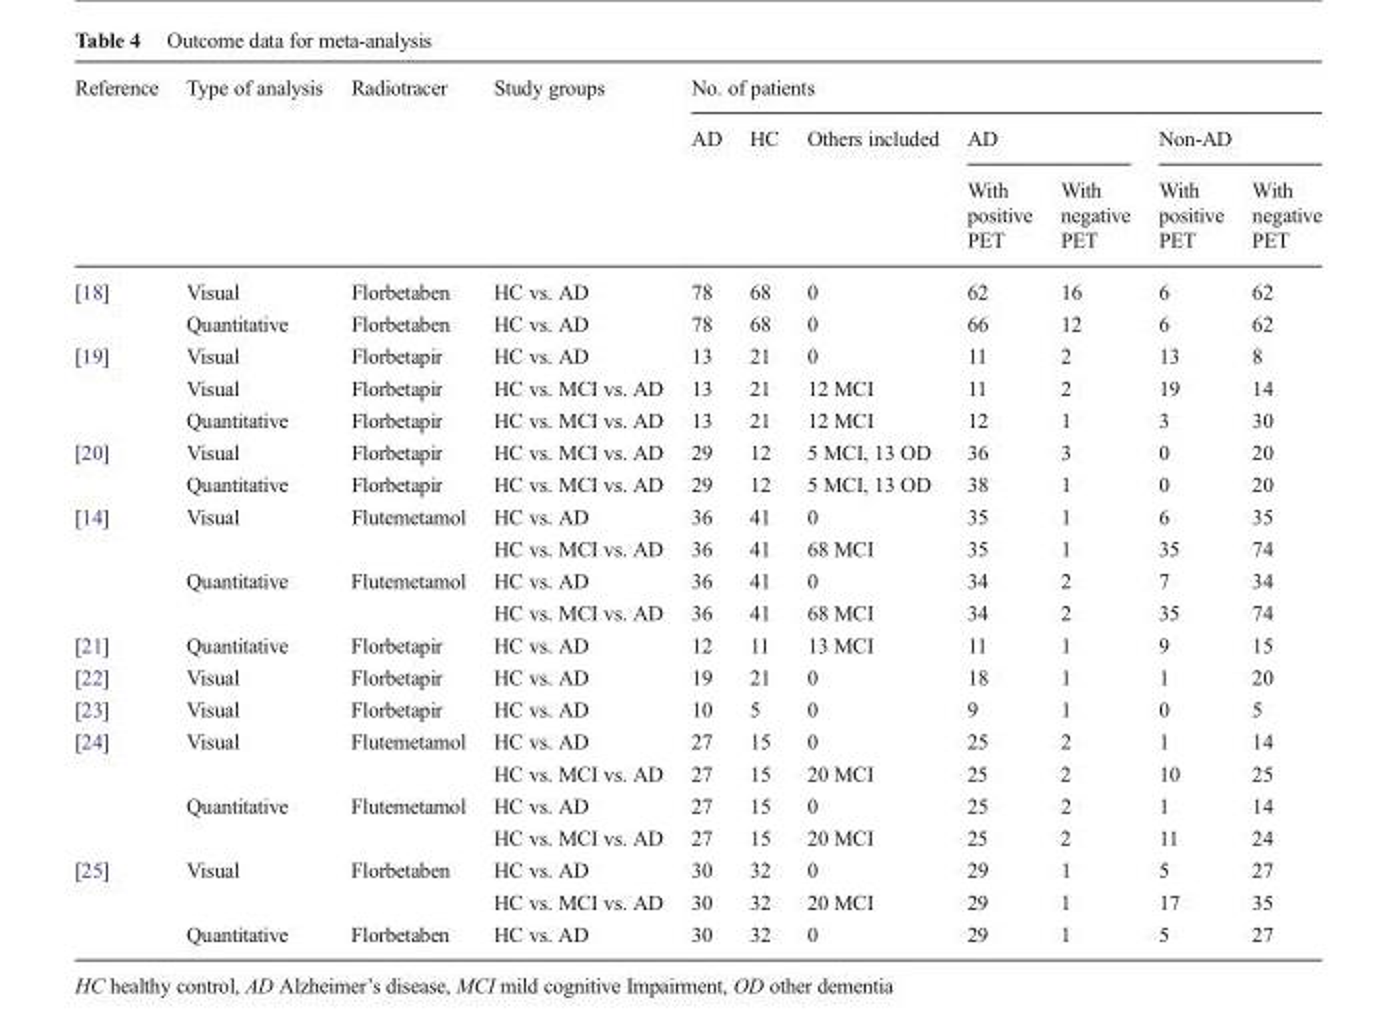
<table><thead><tr><td rowspan="3">Reference</td><td rowspan="3">Type of analysis</td><td rowspan="3">Radiotracer</td><td rowspan="3">Study groups</td><td colspan="7">No. of patients</td></tr><tr><td rowspan="2">AD</td><td rowspan="2">HC</td><td rowspan="2">Others included</td><td colspan="2">AD</td><td colspan="2">Non-AD</td></tr><tr><td>With positive PET</td><td>With negative PET</td><td>With positive PET</td><td>With negative PET</td></tr></thead><tbody><tr><td rowspan="2">[18]</td><td>Visual</td><td>Florbetaben</td><td>HC vs. AD</td><td>78</td><td>68</td><td>0</td><td>62</td><td>16</td><td>6</td><td>62</td></tr><tr><td>Quantitative</td><td>Florbetaben</td><td>HC vs. AD</td><td>78</td><td>68</td><td>0</td><td>66</td><td>12</td><td>6</td><td>62</td></tr><tr><td rowspan="3">[19]</td><td>Visual</td><td>Florbetapir</td><td>HC vs. AD</td><td>13</td><td>21</td><td>0</td><td>11</td><td>2</td><td>13</td><td>8</td></tr><tr><td>Visual</td><td>Florbetapir</td><td>HC vs. MCI vs. AD</td><td>13</td><td>21</td><td>12 MCI</td><td>11</td><td>2</td><td>19</td><td>14</td></tr><tr><td>Quantitative</td><td>Florbetapir</td><td>HC vs. MCI vs. AD</td><td>13</td><td>21</td><td>12 MCI</td><td>12</td><td>1</td><td>3</td><td>30</td></tr><tr><td rowspan="2">[20]</td><td>Visual</td><td>Florbetapir</td><td>HC vs. MCI vs. AD</td><td>29</td><td>12</td><td>5 MCI, 13 OD</td><td>36</td><td>3</td><td>0</td><td>20</td></tr><tr><td>Quantitative</td><td>Florbetapir</td><td>HC vs. MCI vs. AD</td><td>29</td><td>12</td><td>5 MCI, 13 OD</td><td>38</td><td>1</td><td>0</td><td>20</td></tr><tr><td rowspan="4">[14]</td><td rowspan="2">Visual</td><td rowspan="2">Flutemetamol</td><td>HC vs. AD</td><td>36</td><td>41</td><td>0</td><td>35</td><td>1</td><td>6</td><td>35</td></tr><tr><td>HC vs. MCI vs. AD</td><td>36</td><td>41</td><td>68 MCI</td><td>35</td><td>1</td><td>35</td><td>74</td></tr><tr><td rowspan="2">Quantitative</td><td rowspan="2">Flutemetamol</td><td>HC vs. AD</td><td>36</td><td>41</td><td>0</td><td>34</td><td>2</td><td>7</td><td>34</td></tr><tr><td>HC vs. MCI vs. AD</td><td>36</td><td>41</td><td>68 MCI</td><td>34</td><td>2</td><td>35</td><td>74</td></tr><tr><td>[21]</td><td>Quantitative</td><td>Florbetapir</td><td>HC vs. AD</td><td>12</td><td>11</td><td>13 MCI</td><td>11</td><td>1</td><td>9</td><td>15</td></tr><tr><td>[22]</td><td>Visual</td><td>Florbetapir</td><td>HC vs. AD</td><td>19</td><td>21</td><td>0</td><td>18</td><td>1</td><td>1</td><td>20</td></tr><tr><td>[23]</td><td>Visual</td><td>Florbetapir</td><td>HC vs. AD</td><td>10</td><td>5</td><td>0</td><td>9</td><td>1</td><td>0</td><td>5</td></tr><tr><td rowspan="4">[24]</td><td rowspan="2">Visual</td><td rowspan="2">Flutemetamol</td><td>HC vs. AD</td><td>27</td><td>15</td><td>0</td><td>25</td><td>2</td><td>1</td><td>14</td></tr><tr><td>HC vs. MCI vs. AD</td><td>27</td><td>15</td><td>20 MCI</td><td>25</td><td>2</td><td>10</td><td>25</td></tr><tr><td rowspan="2">Quantitative</td><td rowspan="2">Flutemetamol</td><td>HC vs. AD</td><td>27</td><td>15</td><td>0</td><td>25</td><td>2</td><td>1</td><td>14</td></tr><tr><td>HC vs. MCI vs. AD</td><td>27</td><td>15</td><td>20 MCI</td><td>25</td><td>2</td><td>11</td><td>24</td></tr><tr><td rowspan="3">[25]</td><td rowspan="2">Visual</td><td rowspan="2">Florbetaben</td><td>HC vs. AD</td><td>30</td><td>32</td><td>0</td><td>29</td><td>1</td><td>5</td><td>27</td></tr><tr><td>HC vs. MCI vs. AD</td><td>30</td><td>32</td><td>20 MCI</td><td>29</td><td>1</td><td>17</td><td>35</td></tr><tr><td>Quantitative</td><td>Florbetaben</td><td>HC vs. AD</td><td>30</td><td>32</td><td>0</td><td>29</td><td>1</td><td>5</td><td>27</td></tr></tbody></table>